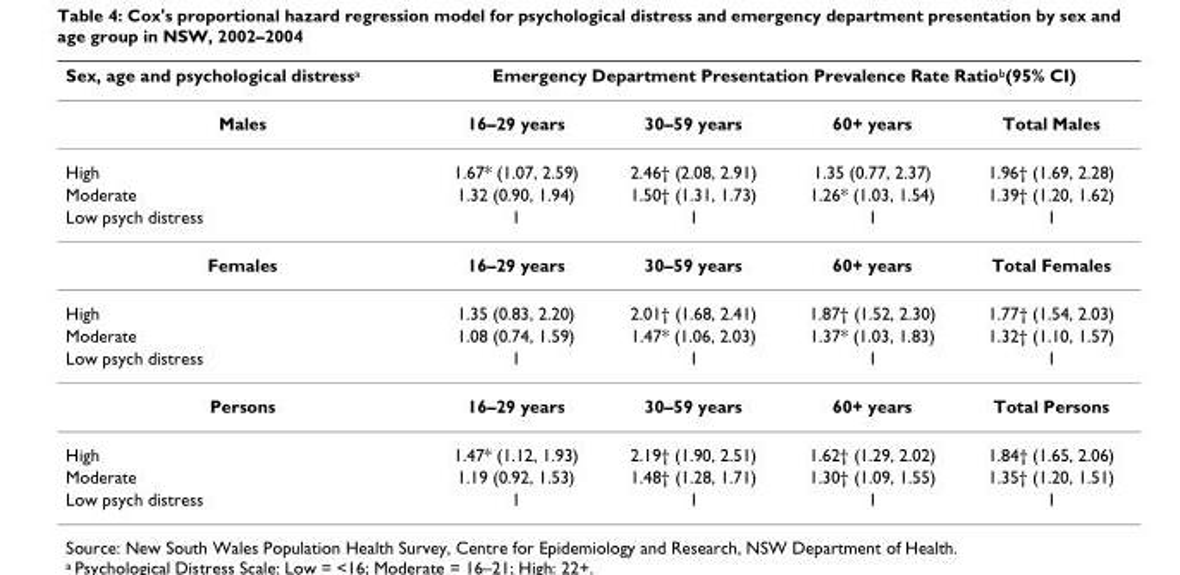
<table><thead><tr><td rowspan="2">Sex, age and psychological distressa Males</td><td colspan="4">Emergency Department Presentation Prevalence Rate Ratiob(95% CI)</td></tr><tr><td>16–29 years</td><td>30–59 years</td><td>60+ years</td><td>Total Males</td></tr></thead><tbody><tr><td>High</td><td>1.67* (1.07, 2.59)</td><td>2.46† (2.08, 2.91)</td><td>1.35 (0.77, 2.37)</td><td>1.96† (1.69, 2.28)</td></tr><tr><td>Moderate</td><td>1.32 (0.90, 1.94)</td><td>1.50† (1.31, 1.73)</td><td>1.26* (1.03, 1.54)</td><td>1.39† (1.20, 1.62)</td></tr><tr><td>Low psych distress</td><td>1</td><td>1</td><td>1</td><td>1</td></tr><tr><td>Females</td><td>16–29 years</td><td>30–59 years</td><td>60+ years</td><td>Total Females</td></tr><tr><td>High</td><td>1.35 (0.83, 2.20)</td><td>2.01† (1.68, 2.41)</td><td>1.87† (1.52, 2.30)</td><td>1.77† (1.54, 2.03)</td></tr><tr><td>Moderate</td><td>1.08 (0.74, 1.59)</td><td>1.47* (1.06, 2.03)</td><td>1.37* (1.03, 1.83)</td><td>1.32† (1.10, 1.57)</td></tr><tr><td>Low psych distress</td><td>1</td><td>1</td><td>1</td><td>1</td></tr><tr><td>Persons</td><td>16–29 years</td><td>30–59 years</td><td>60+ years</td><td>Total Persons</td></tr><tr><td>High</td><td>1.47* (1.12, 1.93)</td><td>2.19† (1.90, 2.51)</td><td>1.62† (1.29, 2.02)</td><td>1.84† (1.65, 2.06)</td></tr><tr><td>Moderate</td><td>1.19 (0.92, 1.53)</td><td>1.48† (1.28, 1.71)</td><td>1.30† (1.09, 1.55)</td><td>1.35† (1.20, 1.51)</td></tr><tr><td>Low psych distress</td><td>1</td><td>1</td><td>1</td><td>1</td></tr></tbody></table>